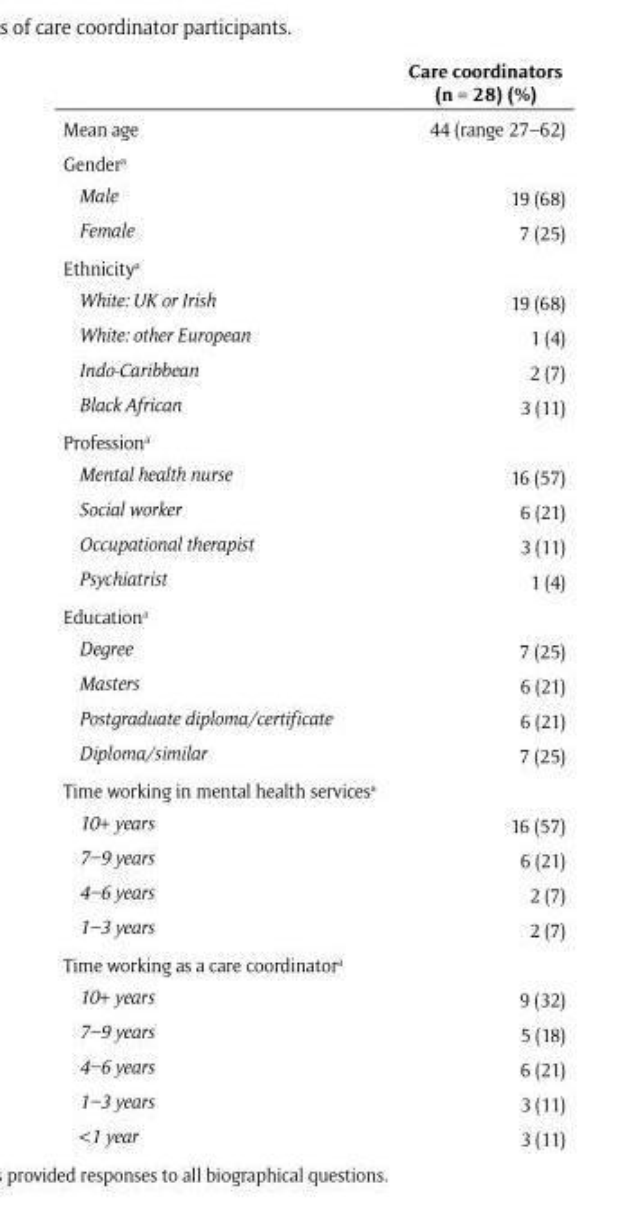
<table><thead><tr><td></td><td>Care coordinators (n = 28) (%)</td></tr></thead><tbody><tr><td>Mean age</td><td>44 (range 27–62)</td></tr><tr><td colspan="2">Gender<sup>a</sup></td></tr><tr><td>Male</td><td>19 (68)</td></tr><tr><td>Female</td><td>7 (25)</td></tr><tr><td colspan="2">Ethnicity<sup>a</sup></td></tr><tr><td>White: UK or Irish</td><td>19 (68)</td></tr><tr><td>White: other European</td><td>1 (4)</td></tr><tr><td>Indo-Caribbean</td><td>2 (7)</td></tr><tr><td>Black African</td><td>3 (11)</td></tr><tr><td colspan="2">Profession<sup>a</sup></td></tr><tr><td>Mental health nurse</td><td>16 (57)</td></tr><tr><td>Social worker</td><td>6 (21)</td></tr><tr><td>Occupational therapist</td><td>3 (11)</td></tr><tr><td>Psychiatrist</td><td>1 (4)</td></tr><tr><td colspan="2">Education<sup>a</sup></td></tr><tr><td>Degree</td><td>7 (25)</td></tr><tr><td>Masters</td><td>6 (21)</td></tr><tr><td>Postgraduate diploma/certificate</td><td>6 (21)</td></tr><tr><td>Diploma/similar</td><td>7 (25)</td></tr><tr><td colspan="2">Time working in mental health services<sup>a</sup></td></tr><tr><td>10+ years</td><td>16 (57)</td></tr><tr><td>7–9 years</td><td>6 (21)</td></tr><tr><td>4–6 years</td><td>2 (7)</td></tr><tr><td>1–3 years</td><td>2 (7)</td></tr><tr><td colspan="2">Time working as a care coordinator<sup>a</sup></td></tr><tr><td>10+ years</td><td>9 (32)</td></tr><tr><td>7–9 years</td><td>5 (18)</td></tr><tr><td>4–6 years</td><td>6 (21)</td></tr><tr><td>1–3 years</td><td>3 (11)</td></tr><tr><td>&lt;1 year</td><td>3 (11)</td></tr></tbody></table>